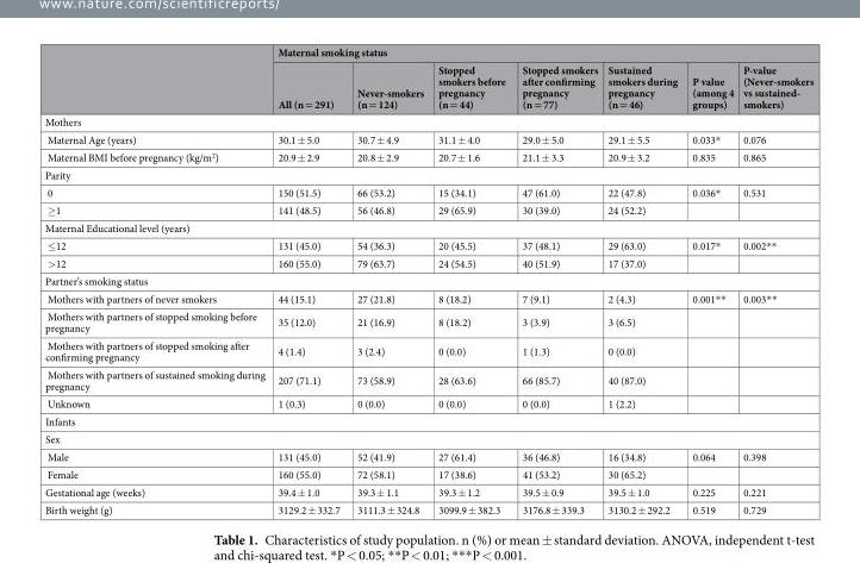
<table><thead><tr><td rowspan="2"></td><td colspan="7">Maternal smoking status</td></tr><tr><td>All (n = 291)</td><td>Never-smokers (n = 124)</td><td>Stopped smokers before pregnancy (n = 44)</td><td>Stopped smokers after confirming pregnancy (n = 77)</td><td>Sustained smokers during pregnancy (n = 46)</td><td>P value (among 4 groups)</td><td>P-value (Never-smokers vs sustained- smokers)</td></tr></thead><tbody><tr><td colspan="8">Mothers</td></tr><tr><td>Maternal Age (years)</td><td>30.1 ± 5.0</td><td>30.7 ± 4.9</td><td>31.1 ± 4.0</td><td>29.0 ± 5.0</td><td>29.1 ± 5.5</td><td>0.033*</td><td>0.076</td></tr><tr><td>Maternal BMI before pregnancy (kg/m<sup>2</sup>)</td><td>20.9 ± 2.9</td><td>20.8 ± 2.9</td><td>20.7 ± 1.6</td><td>21.1 ± 3.3</td><td>20.9 ± 3.2</td><td>0.835</td><td>0.865</td></tr><tr><td colspan="8">Parity</td></tr><tr><td>0</td><td>150 (51.5)</td><td>66 (53.2)</td><td>15 (34.1)</td><td>47 (61.0)</td><td>22 (47.8)</td><td>0.036*</td><td>0.531</td></tr><tr><td>≥1</td><td>141 (48.5)</td><td>56 (46.8)</td><td>29 (65.9)</td><td>30 (39.0)</td><td>24 (52.2)</td><td></td><td></td></tr><tr><td colspan="8">Maternal Educational level (years)</td></tr><tr><td>≤12</td><td>131 (45.0)</td><td>54 (36.3)</td><td>20 (45.5)</td><td>37 (48.1)</td><td>29 (63.0)</td><td>0.017*</td><td>0.002**</td></tr><tr><td>&gt;12</td><td>160 (55.0)</td><td>79 (63.7)</td><td>24 (54.5)</td><td>40 (51.9)</td><td>17 (37.0)</td><td></td><td></td></tr><tr><td colspan="8">Partner’s smoking status</td></tr><tr><td>Mothers with partners of never smokers</td><td>44 (15.1)</td><td>27 (21.8)</td><td>8 (18.2)</td><td>7 (9.1)</td><td>2 (4.3)</td><td>0.001**</td><td>0.003**</td></tr><tr><td>Mothers with partners of stopped smoking before pregnancy</td><td>35 (12.0)</td><td>21 (16.9)</td><td>8 (18.2)</td><td>3 (3.9)</td><td>3 (6.5)</td><td></td><td></td></tr><tr><td>Mothers with partners of stopped smoking after confirming pregnancy</td><td>4 (1.4)</td><td>3 (2.4)</td><td>0 (0.0)</td><td>1 (1.3)</td><td>0 (0.0)</td><td></td><td></td></tr><tr><td>Mothers with partners of sustained smoking during pregnancy</td><td>207 (71.1)</td><td>73 (58.9)</td><td>28 (63.6)</td><td>66 (85.7)</td><td>40 (87.0)</td><td></td><td></td></tr><tr><td>Unknown</td><td>1 (0.3)</td><td>0 (0.0)</td><td>0 (0.0)</td><td>0 (0.0)</td><td>1 (2.2)</td><td></td><td></td></tr><tr><td colspan="8">Infants</td></tr><tr><td colspan="8">Sex</td></tr><tr><td>Male</td><td>131 (45.0)</td><td>52 (41.9)</td><td>27 (61.4)</td><td>36 (46.8)</td><td>16 (34.8)</td><td>0.064</td><td>0.398</td></tr><tr><td>Female</td><td>160 (55.0)</td><td>72 (58.1)</td><td>17 (38.6)</td><td>41 (53.2)</td><td>30 (65.2)</td><td></td><td></td></tr><tr><td>Gestational age (weeks)</td><td>39.4 ± 1.0</td><td>39.3 ± 1.1</td><td>39.3 ± 1.2</td><td>39.5 ± 0.9</td><td>39.5 ± 1.0</td><td>0.225</td><td>0.221</td></tr><tr><td>Birth weight (g)</td><td>3129.2 ± 332.7</td><td>3111.3 ± 324.8</td><td>3099.9 ± 382.3</td><td>3176.8 ± 339.3</td><td>3130.2 ± 292.2</td><td>0.519</td><td>0.729</td></tr></tbody></table>